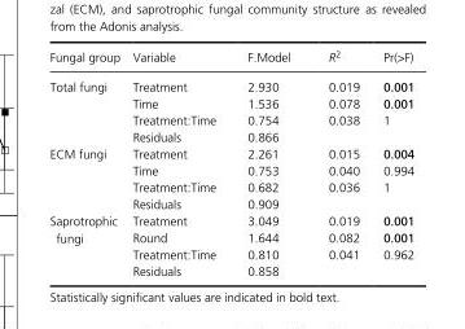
<table><thead><tr><td>Fungal group</td><td>Variable</td><td>F.Model</td><td>R<sup>2</sup></td><td>Pr(&gt;F)</td></tr></thead><tbody><tr><td rowspan="4">Total fungi</td><td>Treatment</td><td>2.930</td><td>0.019</td><td>0.001</td></tr><tr><td>Time</td><td>1.536</td><td>0.078</td><td>0.001</td></tr><tr><td>Treatment:Time</td><td>0.754</td><td>0.038</td><td>1</td></tr><tr><td>Residuals</td><td>0.866</td><td></td><td></td></tr><tr><td rowspan="4">ECM fungi</td><td>Treatment</td><td>2.261</td><td>0.015</td><td>0.004</td></tr><tr><td>Time</td><td>0.753</td><td>0.040</td><td>0.994</td></tr><tr><td>Treatment:Time</td><td>0.682</td><td>0.036</td><td>1</td></tr><tr><td>Residuals</td><td>0.909</td><td></td><td></td></tr><tr><td rowspan="4">Saprotrophic fungi</td><td>Treatment</td><td>3.049</td><td>0.019</td><td>0.001</td></tr><tr><td>Round</td><td>1.644</td><td>0.082</td><td>0.001</td></tr><tr><td>Treatment:Time</td><td>0.810</td><td>0.041</td><td>0.962</td></tr><tr><td>Residuals</td><td>0.858</td><td></td><td></td></tr></tbody></table>